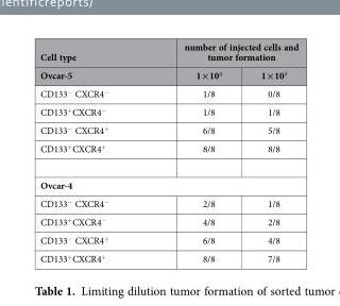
<table><thead><tr><td rowspan="2">Cell type Ovcar-5</td><td colspan="2">number of injected cells and tumor formation</td></tr><tr><td>1×10<sup>4</sup></td><td>1×10<sup>3</sup></td></tr></thead><tbody><tr><td>CD133<sup>−</sup> CXCR4<sup>−</sup></td><td>1/8</td><td>0/8</td></tr><tr><td>CD133<sup>+</sup>CXCR4<sup>−</sup></td><td>1/8</td><td>1/8</td></tr><tr><td>CD133<sup>−</sup> CXCR4<sup>+</sup></td><td>6/8</td><td>5/8</td></tr><tr><td>CD133<sup>+</sup>CXCR4<sup>+</sup></td><td>8/8</td><td>8/8</td></tr><tr><td colspan="3">Ovcar-4</td></tr><tr><td>CD133<sup>−</sup> CXCR4<sup>−</sup></td><td>2/8</td><td>1/8</td></tr><tr><td>CD133<sup>+</sup>CXCR4<sup>−</sup></td><td>4/8</td><td>2/8</td></tr><tr><td>CD133<sup>−</sup> CXCR4<sup>+</sup></td><td>6/8</td><td>4/8</td></tr><tr><td>CD133<sup>+</sup>CXCR4<sup>+</sup></td><td>8/8</td><td>7/8</td></tr></tbody></table>